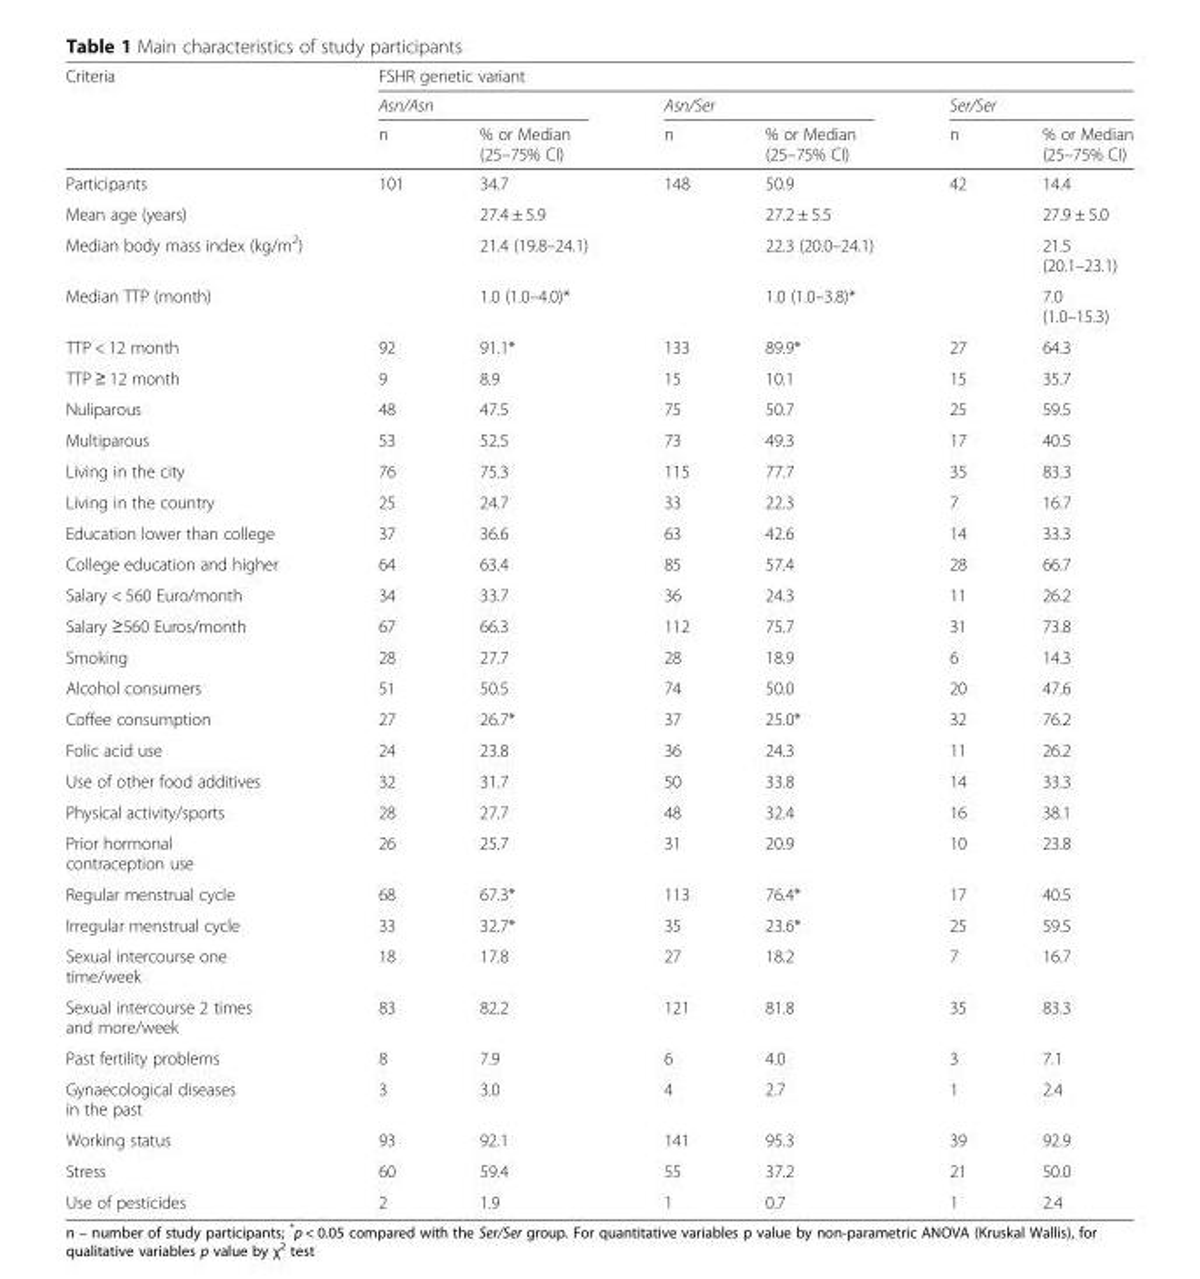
<table><thead><tr><td rowspan="3">Criteria</td><td colspan="6">FSHR genetic variant</td></tr><tr><td colspan="2">Asn/Asn</td><td colspan="2">Asn/Ser</td><td colspan="2">Ser/Ser</td></tr><tr><td>n</td><td>% or Median (25–75% CI)</td><td>n</td><td>% or Median (25–75% CI)</td><td>n</td><td>% or Median (25–75% CI)</td></tr></thead><tbody><tr><td>Participants</td><td rowspan="4">101</td><td>34.7</td><td rowspan="4">148</td><td>50.9</td><td rowspan="4">42</td><td>14.4</td></tr><tr><td>Mean age (years)</td><td>27.4 ± 5.9</td><td>27.2 ± 5.5</td><td>27.9 ± 5.0</td></tr><tr><td>Median body mass index (kg/m<sup>2</sup>)</td><td>21.4 (19.8–24.1)</td><td>22.3 (20.0–24.1)</td><td>21.5 (20.1–23.1)</td></tr><tr><td>Median TTP (month)</td><td>1.0 (1.0–4.0)*</td><td>1.0 (1.0–3.8)*</td><td>7.0 (1.0–15.3)</td></tr><tr><td>TTP &lt; 12 month</td><td>92</td><td>91.1*</td><td>133</td><td>89.9*</td><td>27</td><td>64.3</td></tr><tr><td>TTP ≥ 12 month</td><td>9</td><td>8.9</td><td>15</td><td>10.1</td><td>15</td><td>35.7</td></tr><tr><td>Nuliparous</td><td>48</td><td>47.5</td><td>75</td><td>50.7</td><td>25</td><td>59.5</td></tr><tr><td>Multiparous</td><td>53</td><td>52.5</td><td>73</td><td>49.3</td><td>17</td><td>40.5</td></tr><tr><td>Living in the city</td><td>76</td><td>75.3</td><td>115</td><td>77.7</td><td>35</td><td>83.3</td></tr><tr><td>Living in the country</td><td>25</td><td>24.7</td><td>33</td><td>22.3</td><td>7</td><td>16.7</td></tr><tr><td>Education lower than college</td><td>37</td><td>36.6</td><td>63</td><td>42.6</td><td>14</td><td>33.3</td></tr><tr><td>College education and higher</td><td>64</td><td>63.4</td><td>85</td><td>57.4</td><td>28</td><td>66.7</td></tr><tr><td>Salary &lt; 560 Euro/month</td><td>34</td><td>33.7</td><td>36</td><td>24.3</td><td>11</td><td>26.2</td></tr><tr><td>Salary ≥560 Euros/month</td><td>67</td><td>66.3</td><td>112</td><td>75.7</td><td>31</td><td>73.8</td></tr><tr><td>Smoking</td><td>28</td><td>27.7</td><td>28</td><td>18.9</td><td>6</td><td>14.3</td></tr><tr><td>Alcohol consumers</td><td>51</td><td>50.5</td><td>74</td><td>50.0</td><td>20</td><td>47.6</td></tr><tr><td>Coffee consumption</td><td>27</td><td>26.7*</td><td>37</td><td>25.0*</td><td>32</td><td>76.2</td></tr><tr><td>Folic acid use</td><td>24</td><td>23.8</td><td>36</td><td>24.3</td><td>11</td><td>26.2</td></tr><tr><td>Use of other food additives</td><td>32</td><td>31.7</td><td>50</td><td>33.8</td><td>14</td><td>33.3</td></tr><tr><td>Physical activity/sports</td><td>28</td><td>27.7</td><td>48</td><td>32.4</td><td>16</td><td>38.1</td></tr><tr><td>Prior hormonal contraception use</td><td>26</td><td>25.7</td><td>31</td><td>20.9</td><td>10</td><td>23.8</td></tr><tr><td>Regular menstrual cycle</td><td>68</td><td>67.3*</td><td>113</td><td>76.4*</td><td>17</td><td>40.5</td></tr><tr><td>Irregular menstrual cycle</td><td>33</td><td>32.7*</td><td>35</td><td>23.6*</td><td>25</td><td>59.5</td></tr><tr><td>Sexual intercourse one time/week</td><td>18</td><td>17.8</td><td>27</td><td>18.2</td><td>7</td><td>16.7</td></tr><tr><td>Sexual intercourse 2 times and more/week</td><td>83</td><td>82.2</td><td>121</td><td>81.8</td><td>35</td><td>83.3</td></tr><tr><td>Past fertility problems</td><td>8</td><td>7.9</td><td>6</td><td>4.0</td><td>3</td><td>7.1</td></tr><tr><td>Gynaecological diseases in the past</td><td>3</td><td>3.0</td><td>4</td><td>2.7</td><td>1</td><td>2.4</td></tr><tr><td>Working status</td><td>93</td><td>92.1</td><td>141</td><td>95.3</td><td>39</td><td>92.9</td></tr><tr><td>Stress</td><td>60</td><td>59.4</td><td>55</td><td>37.2</td><td>21</td><td>50.0</td></tr><tr><td>Use of pesticides</td><td>2</td><td>1.9</td><td>1</td><td>0.7</td><td>1</td><td>2.4</td></tr></tbody></table>